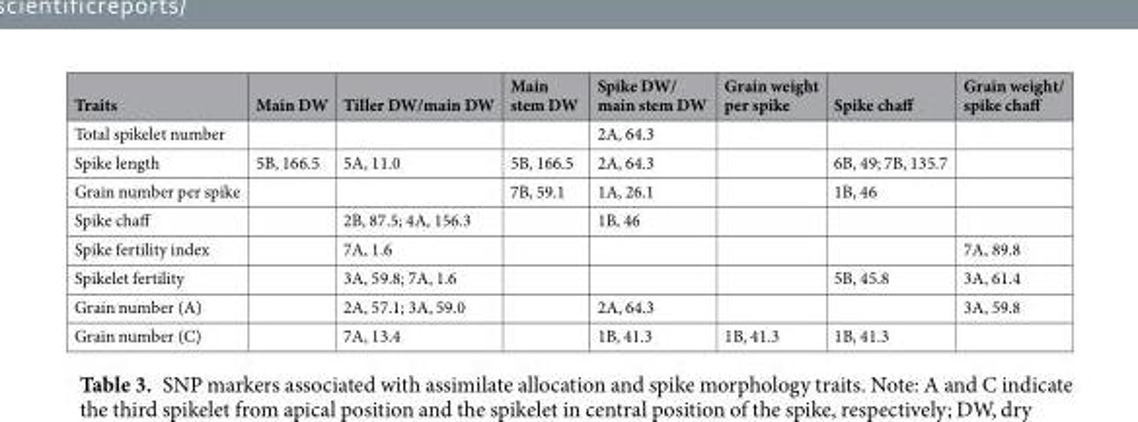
<table><thead><tr><td>Traits</td><td>Main DW</td><td>Tiller DW/main DW</td><td>Main stem DW</td><td>Spike DW/ main stem DW</td><td>Grain weight per spike</td><td>Spike chaff</td><td>Grain weight/ spike chaff</td></tr></thead><tbody><tr><td>Total spikelet number</td><td></td><td></td><td></td><td>2A, 64.3</td><td></td><td></td><td></td></tr><tr><td>Spike length</td><td>5B, 166.5</td><td>5A, 11.0</td><td>5B, 166.5</td><td>2A, 64.3</td><td></td><td>6B, 49; 7B, 135.7</td><td></td></tr><tr><td>Grain number per spike</td><td></td><td></td><td>7B, 59.1</td><td>1A, 26.1</td><td></td><td>1B, 46</td><td></td></tr><tr><td>Spike chaff</td><td></td><td>2B, 87.5; 4A, 156.3</td><td></td><td>1B, 46</td><td></td><td></td><td></td></tr><tr><td>Spike fertility index</td><td></td><td>7A, 1.6</td><td></td><td></td><td></td><td></td><td>7A, 89.8</td></tr><tr><td>Spikelet fertility</td><td></td><td>3A, 59.8; 7A, 1.6</td><td></td><td></td><td></td><td>5B, 45.8</td><td>3A, 61.4</td></tr><tr><td>Grain number (A)</td><td></td><td>2A, 57.1; 3A, 59.0</td><td></td><td>2A, 64.3</td><td></td><td></td><td>3A, 59.8</td></tr><tr><td>Grain number (C)</td><td></td><td>7A, 13.4</td><td></td><td>1B, 41.3</td><td>1B, 41.3</td><td>1B, 41.3</td><td></td></tr></tbody></table>